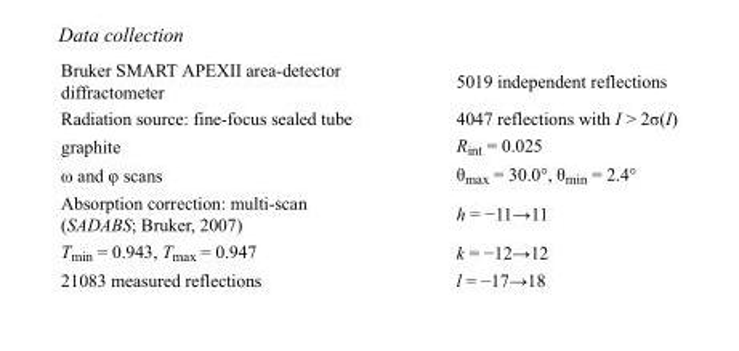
<table><tbody><tr><td>Bruker SMART APEXII area-detector diffractometer</td><td>5019 independent reflections</td></tr><tr><td>Radiation source: fine-focus sealed tube</td><td>4047 reflections with I &gt; 2σ(I)</td></tr><tr><td>graphite</td><td>R<sub>int</sub> = 0.025</td></tr><tr><td>ω and φ scans</td><td>θ<sub>max</sub> = 30.0°, θ<sub>min</sub> = 2.4°</td></tr><tr><td>Absorption correction: multi-scan (SADABS; Bruker, 2007)</td><td>h = −11→11</td></tr><tr><td>T<sub>min</sub> = 0.943, T<sub>max</sub> = 0.947</td><td>k = −12→12</td></tr><tr><td>21083 measured reflections</td><td>l = −17→18</td></tr></tbody></table>